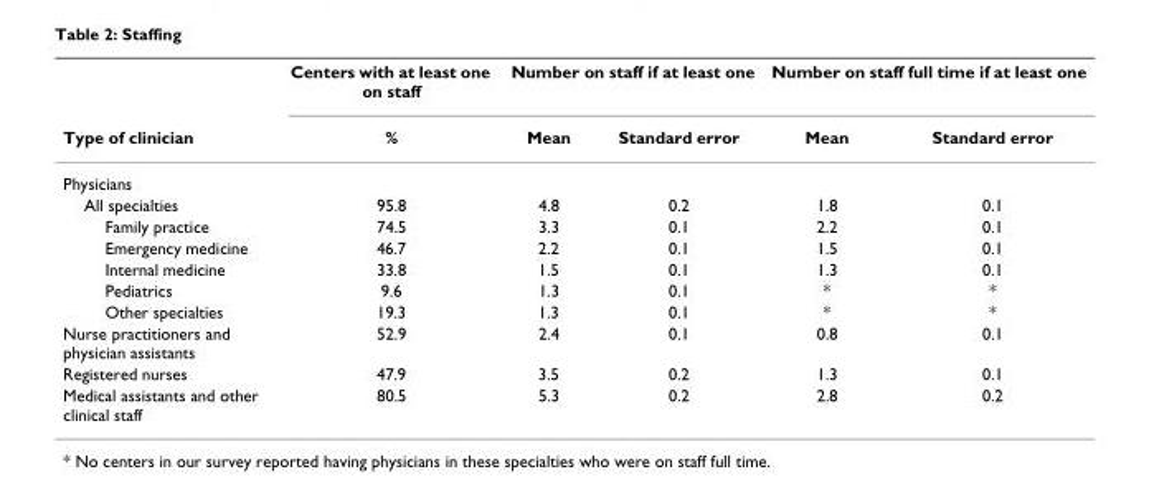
<table><thead><tr><td rowspan="2">Type of clinician</td><td rowspan="2">Centers with at least one on staff %</td><td colspan="2">Number on staff if at least one</td><td colspan="2">Number on staff full time if at least one</td></tr><tr><td>Mean</td><td>Standard error</td><td>Mean</td><td>Standard error</td></tr></thead><tbody><tr><td colspan="6">Physicians</td></tr><tr><td>All specialties</td><td>95.8</td><td>4.8</td><td>0.2</td><td>1.8</td><td>0.1</td></tr><tr><td>Family practice</td><td>74.5</td><td>3.3</td><td>0.1</td><td>2.2</td><td>0.1</td></tr><tr><td>Emergency medicine</td><td>46.7</td><td>2.2</td><td>0.1</td><td>1.5</td><td>0.1</td></tr><tr><td>Internal medicine</td><td>33.8</td><td>1.5</td><td>0.1</td><td>1.3</td><td>0.1</td></tr><tr><td>Pediatrics</td><td>9.6</td><td>1.3</td><td>0.1</td><td>*</td><td>*</td></tr><tr><td>Other specialties</td><td>19.3</td><td>1.3</td><td>0.1</td><td>*</td><td>*</td></tr><tr><td>Nurse practitioners and physician assistants</td><td>52.9</td><td>2.4</td><td>0.1</td><td>0.8</td><td>0.1</td></tr><tr><td>Registered nurses</td><td>47.9</td><td>3.5</td><td>0.2</td><td>1.3</td><td>0.1</td></tr><tr><td>Medical assistants and other clinical staff</td><td>80.5</td><td>5.3</td><td>0.2</td><td>2.8</td><td>0.2</td></tr></tbody></table>